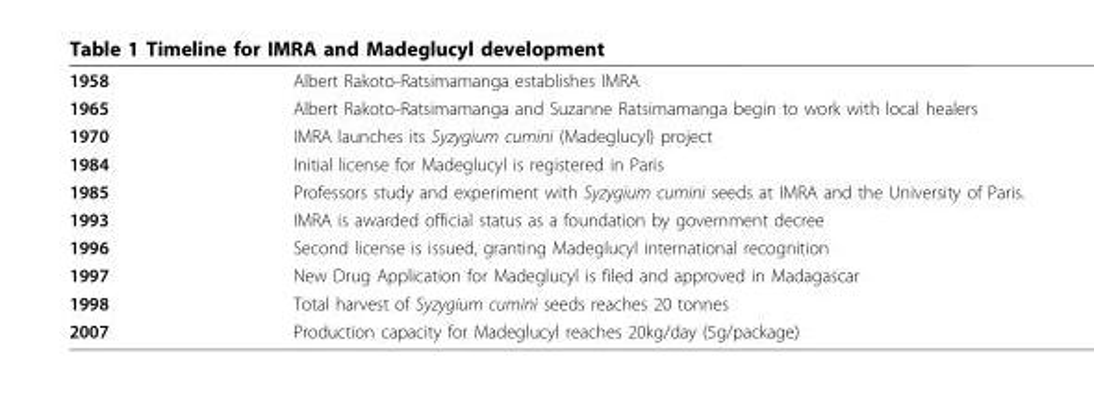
<table><tbody><tr><td>1958</td><td>Albert Rakoto-Ratsimamanga establishes IMRA</td></tr><tr><td>1965</td><td>Albert Rakoto-Ratsimamanga and Suzanne Ratsimamanga begin to work with local healers</td></tr><tr><td>1970</td><td>IMRA launches its Syzygium cumini (Madeglucyl) project</td></tr><tr><td>1984</td><td>Initial license for Madeglucyl is registered in Paris</td></tr><tr><td>1985</td><td>Professors study and experiment with Syzygium cumini seeds at IMRA and the University of Paris.</td></tr><tr><td>1993</td><td>IMRA is awarded official status as a foundation by government decree</td></tr><tr><td>1996</td><td>Second license is issued, granting Madeglucyl international recognition</td></tr><tr><td>1997</td><td>New Drug Application for Madeglucyl is filed and approved in Madagascar</td></tr><tr><td>1998</td><td>Total harvest of Syzygium cumini seeds reaches 20 tonnes</td></tr><tr><td>2007</td><td>Production capacity for Madeglucyl reaches 20kg/day (5g/package)</td></tr></tbody></table>